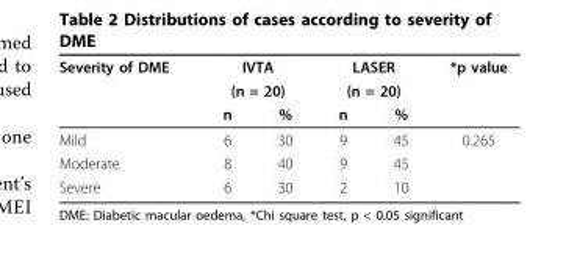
<table><thead><tr><td rowspan="3">Severity of DME</td><td rowspan="2" colspan="2">IVTA (n = 20)</td><td rowspan="2" colspan="2">LASER (n = 20)</td><td rowspan="3">*p value</td></tr><tr></tr><tr><td>n</td><td>%</td><td>n</td><td>%</td></tr></thead><tbody><tr><td>Mild</td><td>6</td><td>30</td><td>9</td><td>45</td><td>0.265</td></tr><tr><td>Moderate</td><td>8</td><td>40</td><td>9</td><td>45</td><td></td></tr><tr><td>Severe</td><td>6</td><td>30</td><td>2</td><td>10</td><td></td></tr></tbody></table>